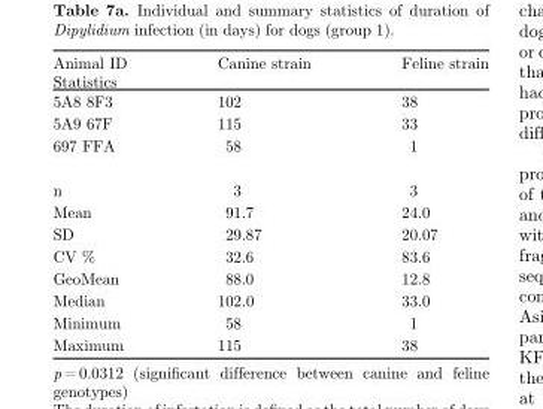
<table><thead><tr><td>Animal ID Statistics</td><td>Canine strain</td><td>Feline strain</td></tr></thead><tbody><tr><td>5A8 8F3</td><td>102</td><td>38</td></tr><tr><td>5A9 67F</td><td>115</td><td>33</td></tr><tr><td>697 FFA</td><td>58</td><td>1</td></tr><tr><td>n</td><td>3</td><td>3</td></tr><tr><td>Mean</td><td>91.7</td><td>24.0</td></tr><tr><td>SD</td><td>29.87</td><td>20.07</td></tr><tr><td>CV %</td><td>32.6</td><td>83.6</td></tr><tr><td>GeoMean</td><td>88.0</td><td>12.8</td></tr><tr><td>Median</td><td>102.0</td><td>33.0</td></tr><tr><td>Minimum</td><td>58</td><td>1</td></tr><tr><td>Maximum</td><td>115</td><td>38</td></tr></tbody></table>